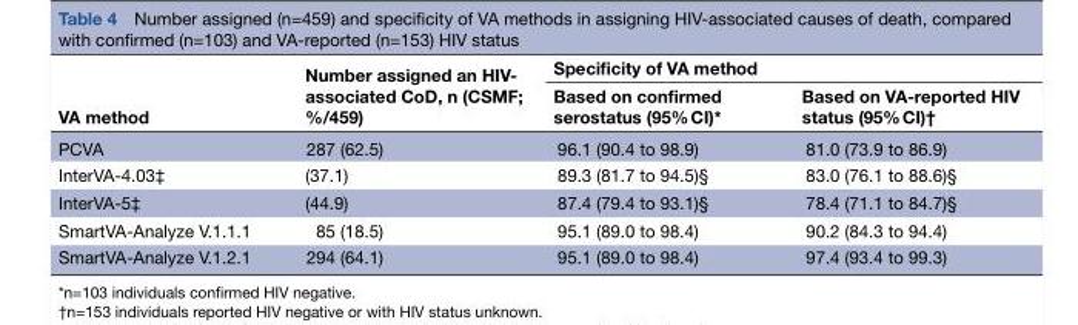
<table><thead><tr><td rowspan="2">VA method</td><td rowspan="2">Number assigned an HIV- associated CoD, n (CSMF; %/459)</td><td colspan="2">Specificity of VA method</td></tr><tr><td>Based on confirmed serostatus (95% CI)*</td><td>Based on VA-reported HIV status (95% CI)†</td></tr></thead><tbody><tr><td>PCVA</td><td>287 (62.5)</td><td>96.1 (90.4 to 98.9)</td><td>81.0 (73.9 to 86.9)</td></tr><tr><td>InterVA-4.03‡</td><td>(37.1)</td><td>89.3 (81.7 to 94.5)§</td><td>83.0 (76.1 to 88.6)§</td></tr><tr><td>InterVA-5‡</td><td>(44.9)</td><td>87.4 (79.4 to 93.1)§</td><td>78.4 (71.1 to 84.7)§</td></tr><tr><td>SmartVA-Analyze V.1.1.1</td><td>85 (18.5)</td><td>95.1 (89.0 to 98.4)</td><td>90.2 (84.3 to 94.4)</td></tr><tr><td>SmartVA-Analyze V.1.2.1</td><td>294 (64.1)</td><td>95.1 (89.0 to 98.4)</td><td>97.4 (93.4 to 99.3)</td></tr></tbody></table>